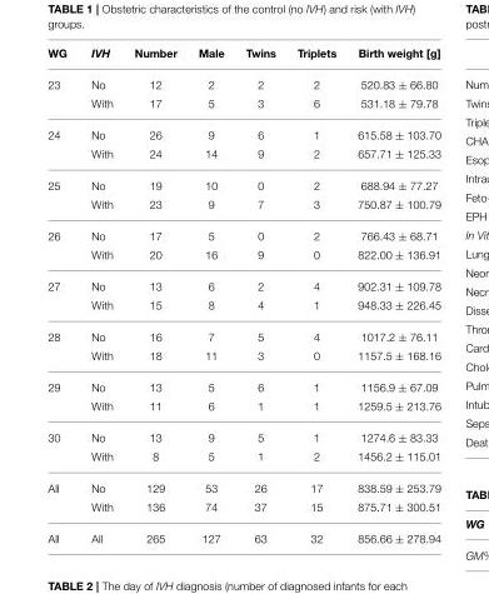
<table><thead><tr><td>WG</td><td>IVH</td><td>Number</td><td>Male</td><td>Twins</td><td>Triplets</td><td>Birth weight [g]</td></tr></thead><tbody><tr><td rowspan="2">23</td><td>No</td><td>12</td><td>2</td><td>2</td><td>2</td><td>520.83 ± 66.80</td></tr><tr><td>With</td><td>17</td><td>5</td><td>3</td><td>6</td><td>531.18 ± 79.78</td></tr><tr><td rowspan="2">24</td><td>No</td><td>26</td><td>9</td><td>6</td><td>1</td><td>615.58 ± 103.70</td></tr><tr><td>With</td><td>24</td><td>14</td><td>9</td><td>2</td><td>657.71 ± 125.33</td></tr><tr><td rowspan="2">25</td><td>No</td><td>19</td><td>10</td><td>0</td><td>2</td><td>688.94 ± 77.27</td></tr><tr><td>With</td><td>23</td><td>9</td><td>7</td><td>3</td><td>750.87 ± 100.79</td></tr><tr><td rowspan="2">26</td><td>No</td><td>17</td><td>5</td><td>0</td><td>2</td><td>766.43 ± 68.71</td></tr><tr><td>With</td><td>20</td><td>16</td><td>9</td><td>0</td><td>822.00 ± 136.91</td></tr><tr><td rowspan="2">27</td><td>No</td><td>13</td><td>6</td><td>2</td><td>4</td><td>902.31 ± 109.78</td></tr><tr><td>With</td><td>15</td><td>8</td><td>4</td><td>1</td><td>948.33 ± 226.45</td></tr><tr><td rowspan="2">28</td><td>No</td><td>16</td><td>7</td><td>5</td><td>4</td><td>1017.2 ± 76.11</td></tr><tr><td>With</td><td>18</td><td>11</td><td>3</td><td>0</td><td>1157.5 ± 168.16</td></tr><tr><td rowspan="2">29</td><td>No</td><td>13</td><td>5</td><td>6</td><td>1</td><td>1156.9 ± 67.09</td></tr><tr><td>With</td><td>11</td><td>6</td><td>1</td><td>1</td><td>1259.5 ± 213.76</td></tr><tr><td rowspan="2">30</td><td>No</td><td>13</td><td>9</td><td>5</td><td>1</td><td>1274.6 ± 83.33</td></tr><tr><td>With</td><td>8</td><td>5</td><td>1</td><td>2</td><td>1456.2 ± 115.01</td></tr><tr><td rowspan="2">All</td><td>No</td><td>129</td><td>53</td><td>26</td><td>17</td><td>838.59 ± 253.79</td></tr><tr><td>With</td><td>136</td><td>74</td><td>37</td><td>15</td><td>875.71 ± 300.51</td></tr><tr><td>All</td><td>All</td><td>265</td><td>127</td><td>63</td><td>32</td><td>856.66 ± 278.94</td></tr></tbody></table>